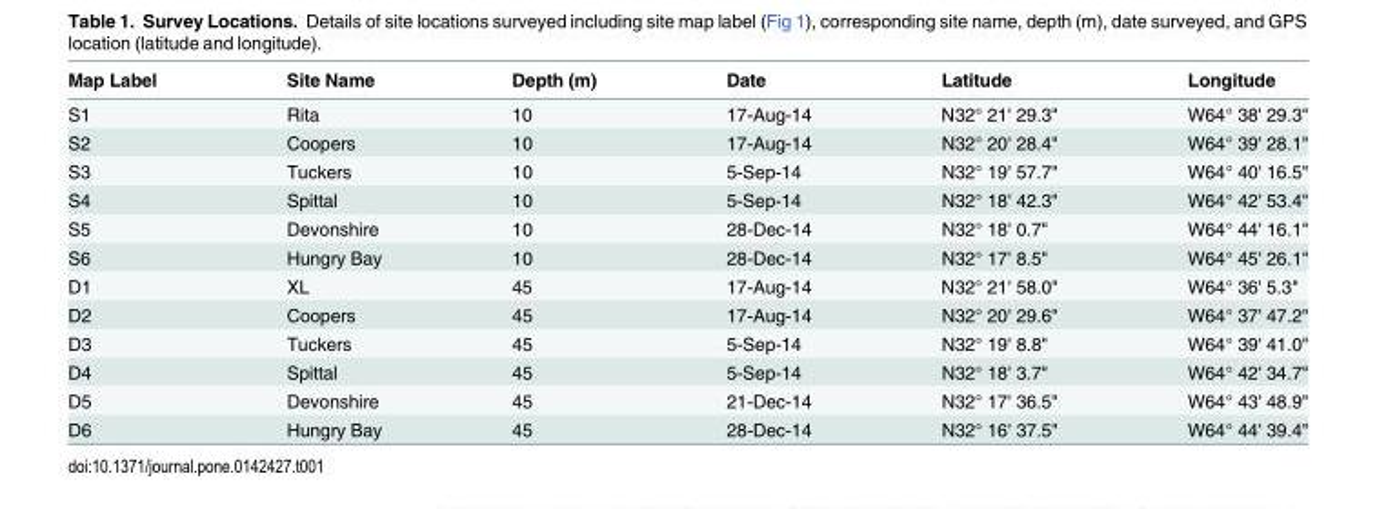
<table><thead><tr><td>Map Label</td><td>Site Name</td><td>Depth (m)</td><td>Date</td><td>Latitude</td><td>Longitude</td></tr></thead><tbody><tr><td>S1</td><td>Rita</td><td>10</td><td>17-Aug-14</td><td>N32° 21&#x27; 29.3&quot;</td><td>W64° 38&#x27; 29.3&quot;</td></tr><tr><td>S2</td><td>Coopers</td><td>10</td><td>17-Aug-14</td><td>N32° 20&#x27; 28.4&quot;</td><td>W64° 39&#x27; 28.1&quot;</td></tr><tr><td>S3</td><td>Tuckers</td><td>10</td><td>5-Sep-14</td><td>N32° 19&#x27; 57.7&quot;</td><td>W64° 40&#x27; 16.5&quot;</td></tr><tr><td>S4</td><td>Spittal</td><td>10</td><td>5-Sep-14</td><td>N32° 18&#x27; 42.3&quot;</td><td>W64° 42&#x27; 53.4&quot;</td></tr><tr><td>S5</td><td>Devonshire</td><td>10</td><td>28-Dec-14</td><td>N32° 18&#x27; 0.7&quot;</td><td>W64° 44&#x27; 16.1&quot;</td></tr><tr><td>S6</td><td>Hungry Bay</td><td>10</td><td>28-Dec-14</td><td>N32° 17&#x27; 8.5&quot;</td><td>W64° 45&#x27; 26.1&quot;</td></tr><tr><td>D1</td><td>XL</td><td>45</td><td>17-Aug-14</td><td>N32° 21&#x27; 58.0&quot;</td><td>W64° 36&#x27; 5.3&quot;</td></tr><tr><td>D2</td><td>Coopers</td><td>45</td><td>17-Aug-14</td><td>N32° 20&#x27; 29.6&quot;</td><td>W64° 37&#x27; 47.2&quot;</td></tr><tr><td>D3</td><td>Tuckers</td><td>45</td><td>5-Sep-14</td><td>N32° 19&#x27; 8.8&quot;</td><td>W64° 39&#x27; 41.0&quot;</td></tr><tr><td>D4</td><td>Spittal</td><td>45</td><td>5-Sep-14</td><td>N32° 18&#x27; 3.7&quot;</td><td>W64° 42&#x27; 34.7&quot;</td></tr><tr><td>D5</td><td>Devonshire</td><td>45</td><td>21-Dec-14</td><td>N32° 17&#x27; 36.5&quot;</td><td>W64° 43&#x27; 48.9&quot;</td></tr><tr><td>D6</td><td>Hungry Bay</td><td>45</td><td>28-Dec-14</td><td>N32° 16&#x27; 37.5&quot;</td><td>W64° 44&#x27; 39.4&quot;</td></tr></tbody></table>